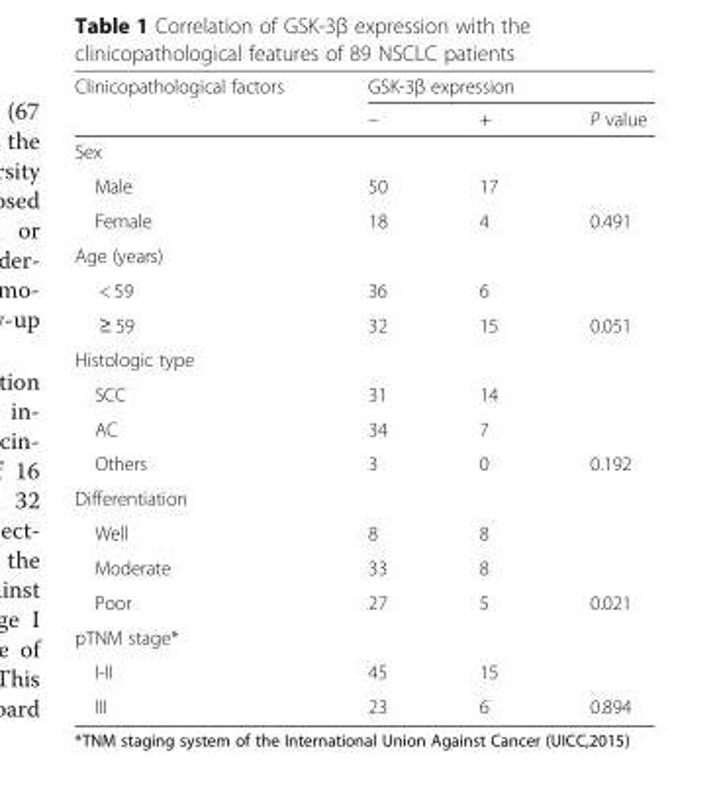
<table><thead><tr><td rowspan="2">Clinicopathological factors</td><td colspan="3">GSK-3β expression</td></tr><tr><td>–</td><td>+</td><td>P value</td></tr></thead><tbody><tr><td colspan="4">Sex</td></tr><tr><td>Male</td><td>50</td><td>17</td><td></td></tr><tr><td>Female</td><td>18</td><td>4</td><td>0.491</td></tr><tr><td colspan="4">Age (years)</td></tr><tr><td>&lt; 59</td><td>36</td><td>6</td><td></td></tr><tr><td>≥ 59</td><td>32</td><td>15</td><td>0.051</td></tr><tr><td colspan="4">Histologic type</td></tr><tr><td>SCC</td><td>31</td><td>14</td><td></td></tr><tr><td>AC</td><td>34</td><td>7</td><td></td></tr><tr><td>Others</td><td>3</td><td>0</td><td>0.192</td></tr><tr><td colspan="4">Differentiation</td></tr><tr><td>Well</td><td>8</td><td>8</td><td></td></tr><tr><td>Moderate</td><td>33</td><td>8</td><td></td></tr><tr><td>Poor</td><td>27</td><td>5</td><td>0.021</td></tr><tr><td colspan="4">pTNM stage*</td></tr><tr><td>I-II</td><td>45</td><td>15</td><td></td></tr><tr><td>III</td><td>23</td><td>6</td><td>0.894</td></tr></tbody></table>